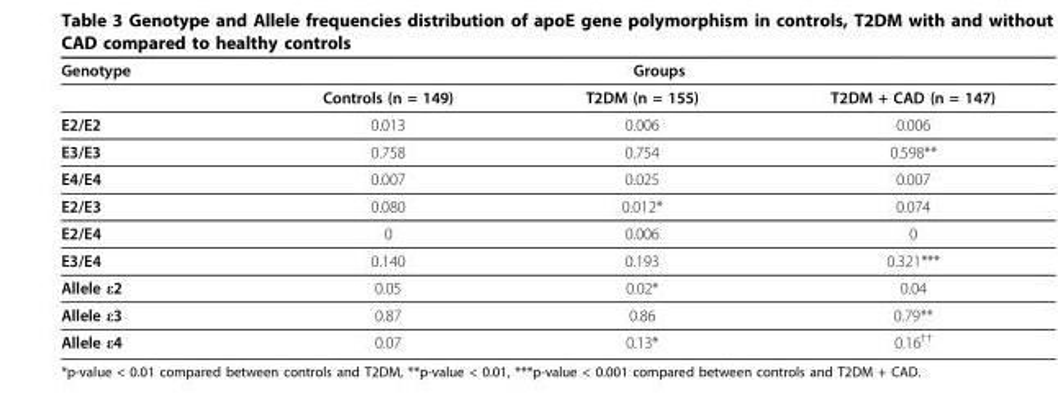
<table><thead><tr><td rowspan="2">Genotype</td><td colspan="3">Groups</td></tr><tr><td>Controls (n = 149)</td><td>T2DM (n = 155)</td><td>T2DM + CAD (n = 147)</td></tr></thead><tbody><tr><td>E2/E2</td><td>0.013</td><td>0.006</td><td>0.006</td></tr><tr><td>E3/E3</td><td>0.758</td><td>0.754</td><td>0.598**</td></tr><tr><td>E4/E4</td><td>0.007</td><td>0.025</td><td>0.007</td></tr><tr><td>E2/E3</td><td>0.080</td><td>0.012*</td><td>0.074</td></tr><tr><td>E2/E4</td><td>0</td><td>0.006</td><td>0</td></tr><tr><td>E3/E4</td><td>0.140</td><td>0.193</td><td>0.321***</td></tr><tr><td>Allele ε2</td><td>0.05</td><td>0.02*</td><td>0.04</td></tr><tr><td>Allele ε3</td><td>0.87</td><td>0.86</td><td>0.79**</td></tr><tr><td>Allele ε4</td><td>0.07</td><td>0.13*</td><td>0.16††</td></tr></tbody></table>